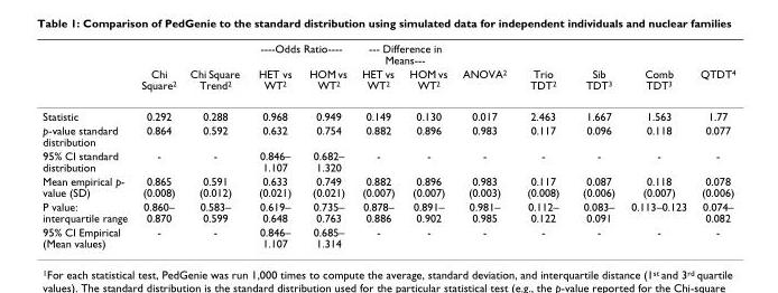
<table><thead><tr><td rowspan="2"></td><td rowspan="2">Chi Square2</td><td rowspan="2">Chi Square Trend2</td><td colspan="2">----Odds Ratio----</td><td colspan="2">--- Difference in Means---</td><td rowspan="2">ANOVA2</td><td rowspan="2">Trio TDT2</td><td rowspan="2">Sib TDT3</td><td rowspan="2">Comb TDT3</td><td rowspan="2">QTDT4</td></tr><tr><td>HET vs WT2</td><td>HOM vs WT2</td><td>HET vs WT2</td><td>HOM vs WT2</td></tr></thead><tbody><tr><td>Statistic</td><td>0.292</td><td>0.288</td><td>0.968</td><td>0.949</td><td>0.149</td><td>0.130</td><td>0.017</td><td>2.463</td><td>1.667</td><td>1.563</td><td>1.77</td></tr><tr><td>p-value standard distribution</td><td>0.864</td><td>0.592</td><td>0.632</td><td>0.754</td><td>0.882</td><td>0.896</td><td>0.983</td><td>0.117</td><td>0.096</td><td>0.118</td><td>0.077</td></tr><tr><td>95% CI standard distribution</td><td>-</td><td>-</td><td>0.846– 1.107</td><td>0.682– 1.320</td><td>-</td><td>-</td><td>-</td><td>-</td><td>-</td><td>-</td><td>-</td></tr><tr><td>Mean empirical p- value (SD)</td><td>0.865 (0.008)</td><td>0.591 (0.012)</td><td>0.633 (0.021)</td><td>0.749 (0.021)</td><td>0.882 (0.007)</td><td>0.896 (0.007)</td><td>0.983 (0.003)</td><td>0.117 (0.008)</td><td>0.087 (0.006)</td><td>0.118 (0.007)</td><td>0.078 (0.006)</td></tr><tr><td>P value: interquartile range</td><td>0.860– 0.870</td><td>0.583– 0.599</td><td>0.619– 0.648</td><td>0.735– 0.763</td><td>0.878– 0.886</td><td>0.891– 0.902</td><td>0.981– 0.985</td><td>0.112– 0.122</td><td>0.083– 0.091</td><td>0.113–0.123</td><td>0.074– 0.082</td></tr><tr><td>95% CI Empirical (Mean values)</td><td>-</td><td>-</td><td>0.846– 1.107</td><td>0.685– 1.314</td><td>-</td><td>-</td><td>-</td><td>-</td><td>-</td><td>-</td><td>-</td></tr></tbody></table>